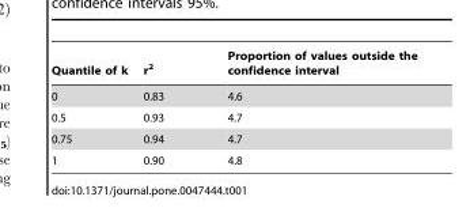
<table><thead><tr><td>Quantile of k</td><td>r<sup>2</sup></td><td>Proportion of values outside the confidence interval</td></tr></thead><tbody><tr><td>0</td><td>0.83</td><td>4.6</td></tr><tr><td>0.5</td><td>0.93</td><td>4.7</td></tr><tr><td>0.75</td><td>0.94</td><td>4.7</td></tr><tr><td>1</td><td>0.90</td><td>4.8</td></tr></tbody></table>